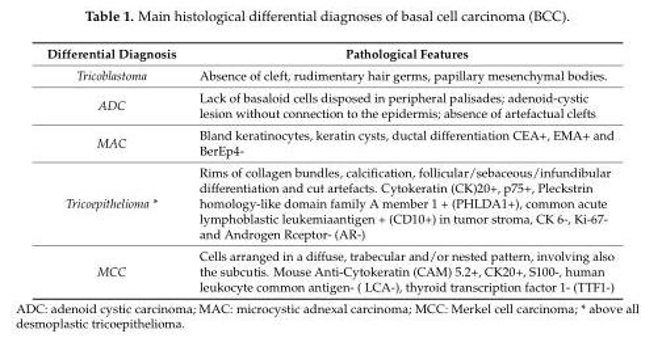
<table><thead><tr><td>Differential Diagnosis</td><td>Pathological Features</td></tr></thead><tbody><tr><td>Tricoblastoma</td><td>Absence of cleft, rudimentary hair germs, papillary mesenchymal bodies.</td></tr><tr><td>ADC</td><td>Lack of basaloid cells disposed in peripheral palisades; adenoid-cystic lesion without connection to the epidermis; absence of artefactual clefts</td></tr><tr><td>MAC</td><td>Bland keratinocytes, keratin cysts, ductal differentiation CEA+, EMA+ and BerEp4-</td></tr><tr><td>Tricoepithelioma *</td><td>Rims of collagen bundles, calcification, follicular/sebaceous/infundibular differentiation and cut artefacts. Cytokeratin (CK)20+, p75+, Pleckstrin homology-like domain family A member 1 + (PHLDA1+), common acute lymphoblastic leukemiaantigen + (CD10+) in tumor stroma, CK 6-, Ki-67- and Androgen Rceptor- (AR-)</td></tr><tr><td>MCC</td><td>Cells arranged in a diffuse, trabecular and/or nested pattern, involving also the subcutis. Mouse Anti-Cytokeratin (CAM) 5.2+, CK20+, S100-, human leukocyte common antigen- ( LCA-), thyroid transcription factor 1- (TTF1-)</td></tr></tbody></table>